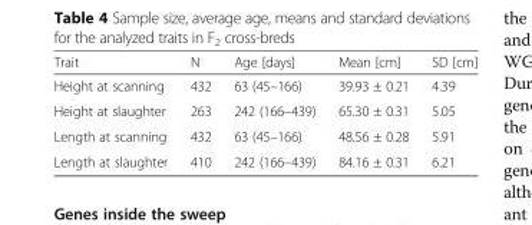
<table><thead><tr><td>Trait</td><td>N</td><td>Age [days]</td><td>Mean [cm]</td><td>SD [cm]</td></tr></thead><tbody><tr><td>Height at scanning</td><td>432</td><td>63 (45–166)</td><td>39.93 ± 0.21</td><td>4.39</td></tr><tr><td>Height at slaughter</td><td>263</td><td>242 (166–439)</td><td>65.30 ± 0.31</td><td>5.05</td></tr><tr><td>Length at scanning</td><td>432</td><td>63 (45–166)</td><td>48.56 ± 0.28</td><td>5.91</td></tr><tr><td>Length at slaughter</td><td>410</td><td>242 (166–439)</td><td>84.16 ± 0.31</td><td>6.21</td></tr></tbody></table>